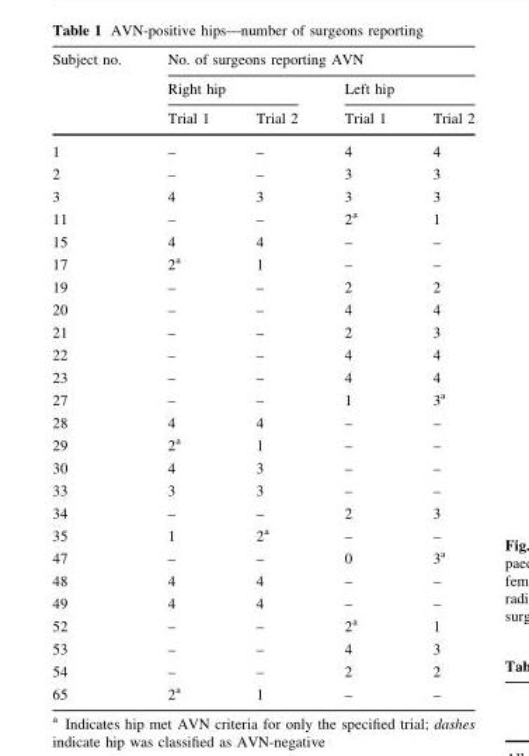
<table><thead><tr><td rowspan="3">Subject no.</td><td colspan="4">No. of surgeons reporting AVN</td></tr><tr><td colspan="2">Right hip</td><td colspan="2">Left hip</td></tr><tr><td>Trial 1</td><td>Trial 2</td><td>Trial 1</td><td>Trial 2</td></tr></thead><tbody><tr><td>1</td><td>–</td><td>–</td><td>4</td><td>4</td></tr><tr><td>2</td><td>–</td><td>–</td><td>3</td><td>3</td></tr><tr><td>3</td><td>4</td><td>3</td><td>3</td><td>3</td></tr><tr><td>11</td><td>–</td><td>–</td><td>2<sup>a</sup></td><td>1</td></tr><tr><td>15</td><td>4</td><td>4</td><td>–</td><td>–</td></tr><tr><td>17</td><td>2<sup>a</sup></td><td>1</td><td>–</td><td>–</td></tr><tr><td>19</td><td>–</td><td>–</td><td>2</td><td>2</td></tr><tr><td>20</td><td>–</td><td>–</td><td>4</td><td>4</td></tr><tr><td>21</td><td>–</td><td>–</td><td>2</td><td>3</td></tr><tr><td>22</td><td>–</td><td>–</td><td>4</td><td>4</td></tr><tr><td>23</td><td>–</td><td>–</td><td>4</td><td>4</td></tr><tr><td>27</td><td>–</td><td>–</td><td>1</td><td>3<sup>a</sup></td></tr><tr><td>28</td><td>4</td><td>4</td><td>–</td><td>–</td></tr><tr><td>29</td><td>2<sup>a</sup></td><td>1</td><td>–</td><td>–</td></tr><tr><td>30</td><td>4</td><td>3</td><td>–</td><td>–</td></tr><tr><td>33</td><td>3</td><td>3</td><td>–</td><td>–</td></tr><tr><td>34</td><td>–</td><td>–</td><td>2</td><td>3</td></tr><tr><td>35</td><td>1</td><td>2<sup>a</sup></td><td>–</td><td>–</td></tr><tr><td>47</td><td>–</td><td>–</td><td>0</td><td>3<sup>a</sup></td></tr><tr><td>48</td><td>4</td><td>4</td><td>–</td><td>–</td></tr><tr><td>49</td><td>4</td><td>4</td><td>–</td><td>–</td></tr><tr><td>52</td><td>–</td><td>–</td><td>2<sup>a</sup></td><td>1</td></tr><tr><td>53</td><td>–</td><td>–</td><td>4</td><td>3</td></tr><tr><td>54</td><td>–</td><td>–</td><td>2</td><td>2</td></tr><tr><td>65</td><td>2<sup>a</sup></td><td>1</td><td>–</td><td>–</td></tr></tbody></table>